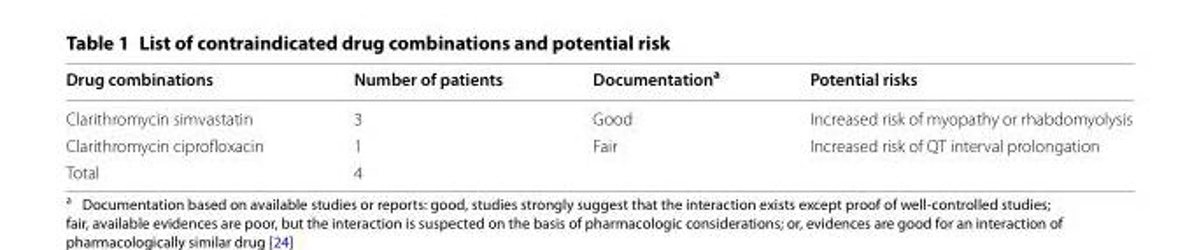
<table><thead><tr><td>Drug combinations</td><td>Number of patients</td><td>Documentation<sup>a</sup></td><td>Potential risks</td></tr></thead><tbody><tr><td>Clarithromycin simvastatin</td><td>3</td><td>Good</td><td>Increased risk of myopathy or rhabdomyolysis</td></tr><tr><td>Clarithromycin ciprofloxacin</td><td>1</td><td>Fair</td><td>Increased risk of QT interval prolongation</td></tr><tr><td>Total</td><td>4</td><td></td><td></td></tr></tbody></table>